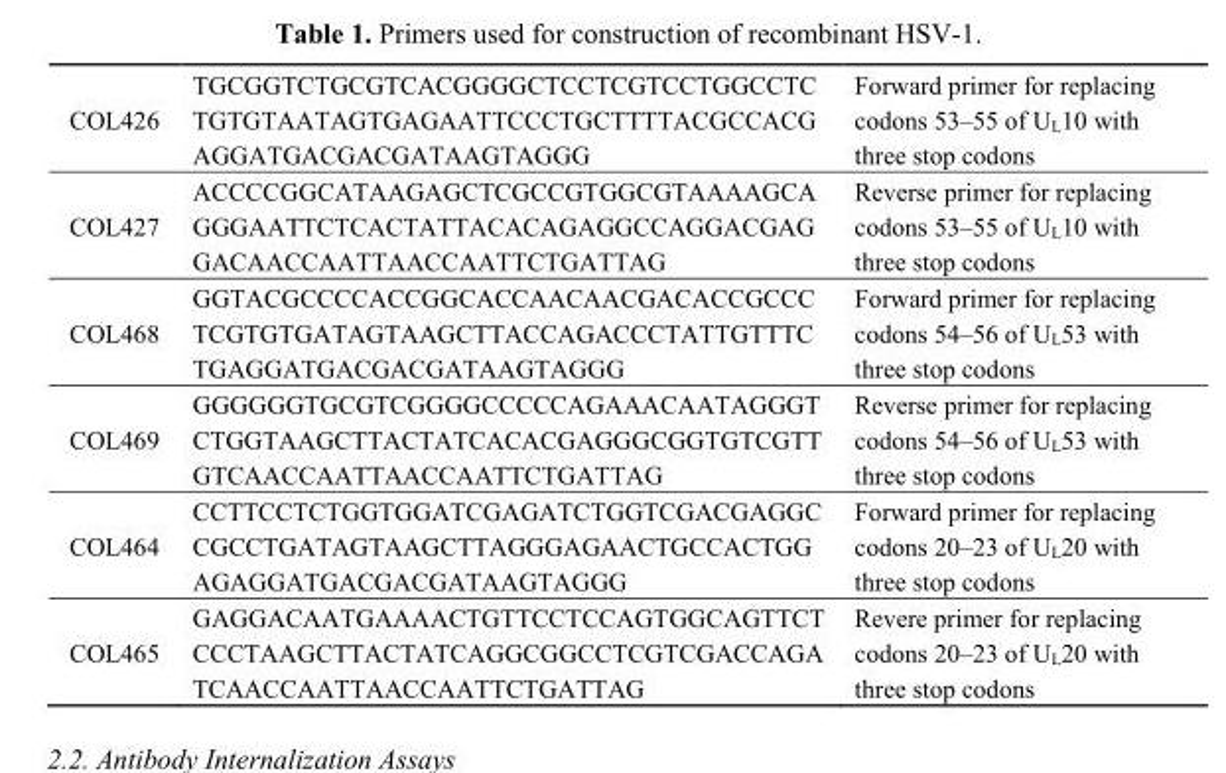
<table><tbody><tr><td>COL426</td><td>TGCGGTCTGCGTCACGGGGCTCCTCGTCCTGGCCTC TGTGTAATAGTGAGAATTCCCTGCTTTTACGCCACG AGGATGACGACGATAAGTAGGG</td><td>Forward primer for replacing codons 53–55 of U<sub>L</sub>10 with three stop codons</td></tr><tr><td>COL427</td><td>ACCCCGGCATAAGAGCTCGCCGTGGCGTAAAAGCA GGGAATTCTCACTATTACACAGAGGCCAGGACGAG GACAACCAATTAACCAATTCTGATTAG</td><td>Reverse primer for replacing codons 53–55 of U<sub>L</sub>10 with three stop codons</td></tr><tr><td>COL468</td><td>GGTACGCCCCACCGGCACCAACAACGACACCGCCC TCGTGTGATAGTAAGCTTACCAGACCCTATTGTTTC TGAGGATGACGACGATAAGTAGGG</td><td>Forward primer for replacing codons 54–56 of U<sub>L</sub>53 with three stop codons</td></tr><tr><td>COL469</td><td>GGGGGGTGCGTCGGGGCCCCCAGAAACAATAGGGT CTGGTAAGCTTACTATCACACGAGGGCGGTGTCGTT GTCAACCAATTAACCAATTCTGATTAG</td><td>Reverse primer for replacing codons 54–56 of U<sub>L</sub>53 with three stop codons</td></tr><tr><td>COL464</td><td>CCTTCCTCTGGTGGATCGAGATCTGGTCGACGAGGC CGCCTGATAGTAAGCTTAGGGAGAACTGCCACTGG AGAGGATGACGACGATAAGTAGGG</td><td>Forward primer for replacing codons 20–23 of U<sub>L</sub>20 with three stop codons</td></tr><tr><td>COL465</td><td>GAGGACAATGAAAACTGTTCCTCCAGTGGCAGTTCT CCCTAAGCTTACTATCAGGCGGCCTCGTCGACCAGA TCAACCAATTAACCAATTCTGATTAG</td><td>Revere primer for replacing codons 20–23 of U<sub>L</sub>20 with three stop codons</td></tr></tbody></table>